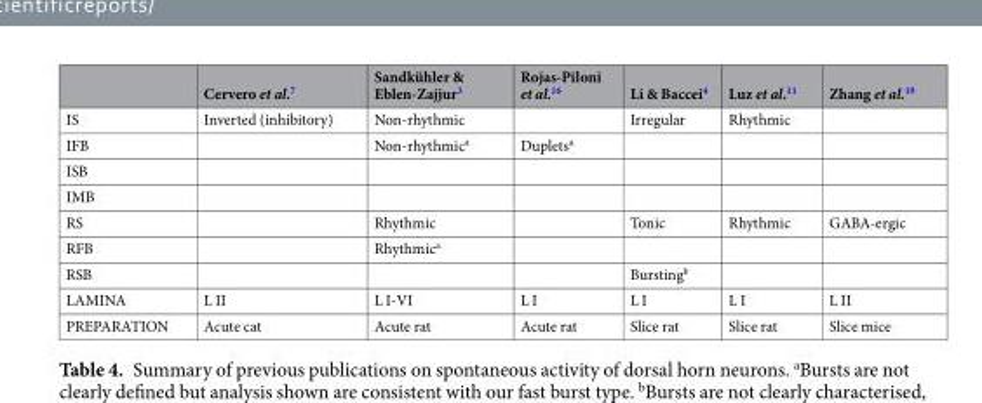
<table><thead><tr><td></td><td>Cervero et al.<sup>7</sup></td><td>Sandkühler &amp; Eblen-Zajjur<sup>3</sup></td><td>Rojas-Piloni et al.<sup>16</sup></td><td>Li &amp; Baccei<sup>4</sup></td><td>Luz et al.<sup>11</sup></td><td>Zhang et al.<sup>19</sup></td></tr></thead><tbody><tr><td>IS</td><td>Inverted (inhibitory)</td><td>Non-rhythmic</td><td></td><td>Irregular</td><td>Rhythmic</td><td></td></tr><tr><td>IFB</td><td></td><td>Non-rhythmic<sup>a</sup></td><td>Duplets<sup>a</sup></td><td></td><td></td><td></td></tr><tr><td colspan="7">ISB</td></tr><tr><td colspan="7">IMB</td></tr><tr><td>RS</td><td></td><td>Rhythmic</td><td></td><td>Tonic</td><td>Rhythmic</td><td>GABA-ergic</td></tr><tr><td>RFB</td><td></td><td>Rhythmic<sup>a</sup></td><td></td><td></td><td></td><td></td></tr><tr><td>RSB</td><td></td><td></td><td></td><td>Bursting<sup>b</sup></td><td></td><td></td></tr><tr><td>LAMINA</td><td>L II</td><td>L I-VI</td><td>L I</td><td>L I</td><td>L I</td><td>L II</td></tr><tr><td>PREPARATION</td><td>Acute cat</td><td>Acute rat</td><td>Acute rat</td><td>Slice rat</td><td>Slice rat</td><td>Slice mice</td></tr></tbody></table>